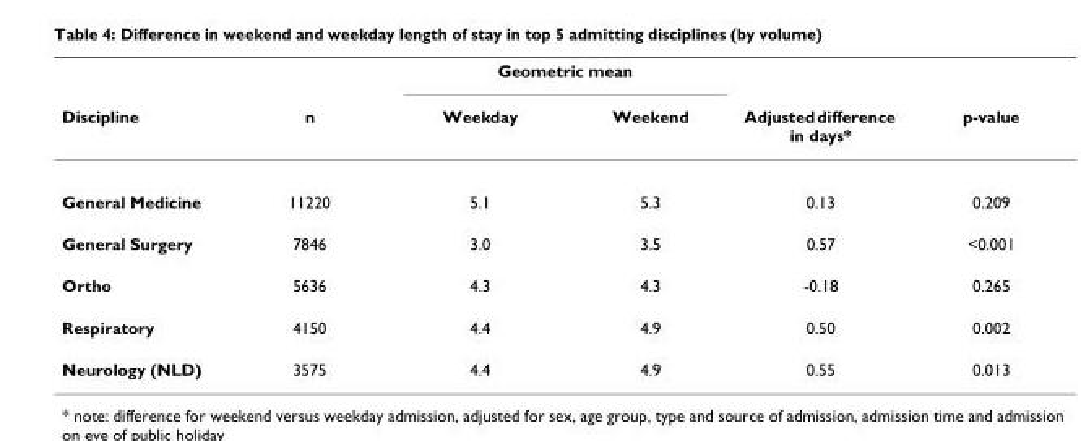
<table><thead><tr><td rowspan="2">Discipline</td><td rowspan="2">n</td><td colspan="2">Geometric mean</td><td rowspan="2">Adjusted difference in days*</td><td rowspan="2">p-value</td></tr><tr><td>Weekday</td><td>Weekend</td></tr></thead><tbody><tr><td>General Medicine</td><td>11220</td><td>5.1</td><td>5.3</td><td>0.13</td><td>0.209</td></tr><tr><td>General Surgery</td><td>7846</td><td>3.0</td><td>3.5</td><td>0.57</td><td>&lt;0.001</td></tr><tr><td>Ortho</td><td>5636</td><td>4.3</td><td>4.3</td><td>-0.18</td><td>0.265</td></tr><tr><td>Respiratory</td><td>4150</td><td>4.4</td><td>4.9</td><td>0.50</td><td>0.002</td></tr><tr><td>Neurology (NLD)</td><td>3575</td><td>4.4</td><td>4.9</td><td>0.55</td><td>0.013</td></tr></tbody></table>